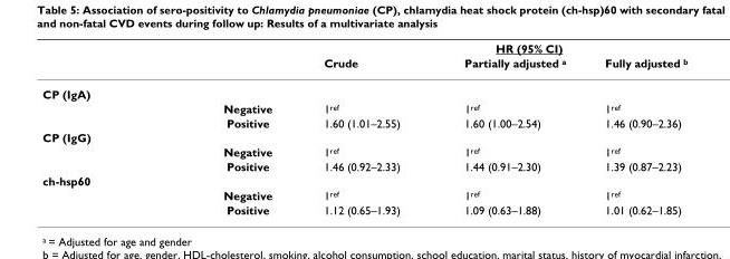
<table><thead><tr><td rowspan="2"></td><td rowspan="2"></td><td colspan="3">HR (95% CI)</td></tr><tr><td>Crude</td><td>Partially adjusted <sup>a</sup></td><td>Fully adjusted <sup>b</sup></td></tr></thead><tbody><tr><td colspan="5">CP (IgA)</td></tr><tr><td></td><td>Negative</td><td>1<sup>ref</sup></td><td>1<sup>ref</sup></td><td>1<sup>ref</sup></td></tr><tr><td></td><td>Positive</td><td>1.60 (1.01–2.55)</td><td>1.60 (1.00–2.54)</td><td>1.46 (0.90–2.36)</td></tr><tr><td colspan="5">CP (IgG)</td></tr><tr><td></td><td>Negative</td><td>1<sup>ref</sup></td><td>1<sup>ref</sup></td><td>1<sup>ref</sup></td></tr><tr><td></td><td>Positive</td><td>1.46 (0.92–2.33)</td><td>1.44 (0.91–2.30)</td><td>1.39 (0.87–2.23)</td></tr><tr><td colspan="5">ch-hsp60</td></tr><tr><td></td><td>Negative</td><td>1<sup>ref</sup></td><td>1<sup>ref</sup></td><td>1<sup>ref</sup></td></tr><tr><td></td><td>Positive</td><td>1.12 (0.65–1.93)</td><td>1.09 (0.63–1.88)</td><td>1.01 (0.62–1.85)</td></tr></tbody></table>